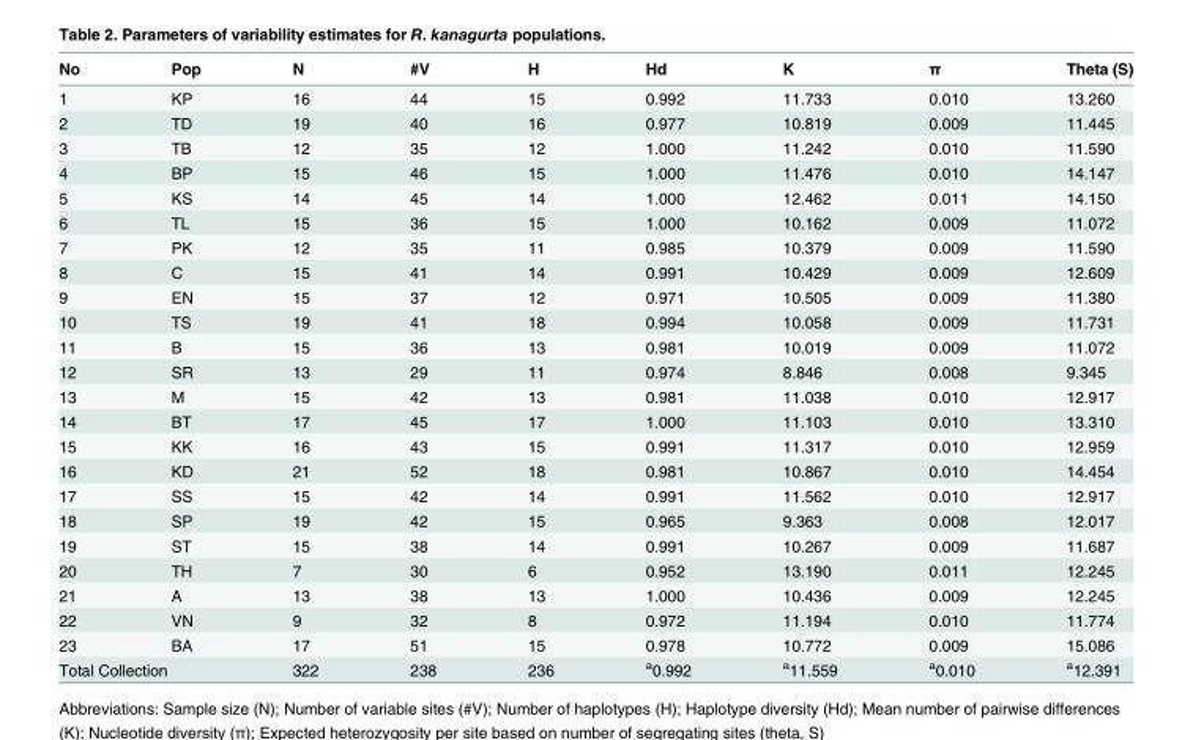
<table><thead><tr><td>No</td><td>Pop</td><td>N</td><td>#V</td><td>H</td><td>Hd</td><td>K</td><td>π</td><td>Theta (S)</td></tr></thead><tbody><tr><td>1</td><td>KP</td><td>16</td><td>44</td><td>15</td><td>0.992</td><td>11.733</td><td>0.010</td><td>13.260</td></tr><tr><td>2</td><td>TD</td><td>19</td><td>40</td><td>16</td><td>0.977</td><td>10.819</td><td>0.009</td><td>11.445</td></tr><tr><td>3</td><td>TB</td><td>12</td><td>35</td><td>12</td><td>1.000</td><td>11.242</td><td>0.010</td><td>11.590</td></tr><tr><td>4</td><td>BP</td><td>15</td><td>46</td><td>15</td><td>1.000</td><td>11.476</td><td>0.010</td><td>14.147</td></tr><tr><td>5</td><td>KS</td><td>14</td><td>45</td><td>14</td><td>1.000</td><td>12.462</td><td>0.011</td><td>14.150</td></tr><tr><td>6</td><td>TL</td><td>15</td><td>36</td><td>15</td><td>1.000</td><td>10.162</td><td>0.009</td><td>11.072</td></tr><tr><td>7</td><td>PK</td><td>12</td><td>35</td><td>11</td><td>0.985</td><td>10.379</td><td>0.009</td><td>11.590</td></tr><tr><td>8</td><td>C</td><td>15</td><td>41</td><td>14</td><td>0.991</td><td>10.429</td><td>0.009</td><td>12.609</td></tr><tr><td>9</td><td>EN</td><td>15</td><td>37</td><td>12</td><td>0.971</td><td>10.505</td><td>0.009</td><td>11.380</td></tr><tr><td>10</td><td>TS</td><td>19</td><td>41</td><td>18</td><td>0.994</td><td>10.058</td><td>0.009</td><td>11.731</td></tr><tr><td>11</td><td>B</td><td>15</td><td>36</td><td>13</td><td>0.981</td><td>10.019</td><td>0.009</td><td>11.072</td></tr><tr><td>12</td><td>SR</td><td>13</td><td>29</td><td>11</td><td>0.974</td><td>8.846</td><td>0.008</td><td>9.345</td></tr><tr><td>13</td><td>M</td><td>15</td><td>42</td><td>13</td><td>0.981</td><td>11.038</td><td>0.010</td><td>12.917</td></tr><tr><td>14</td><td>BT</td><td>17</td><td>45</td><td>17</td><td>1.000</td><td>11.103</td><td>0.010</td><td>13.310</td></tr><tr><td>15</td><td>KK</td><td>16</td><td>43</td><td>15</td><td>0.991</td><td>11.317</td><td>0.010</td><td>12.959</td></tr><tr><td>16</td><td>KD</td><td>21</td><td>52</td><td>18</td><td>0.981</td><td>10.867</td><td>0.010</td><td>14.454</td></tr><tr><td>17</td><td>SS</td><td>15</td><td>42</td><td>14</td><td>0.991</td><td>11.562</td><td>0.010</td><td>12.917</td></tr><tr><td>18</td><td>SP</td><td>19</td><td>42</td><td>15</td><td>0.965</td><td>9.363</td><td>0.008</td><td>12.017</td></tr><tr><td>19</td><td>ST</td><td>15</td><td>38</td><td>14</td><td>0.991</td><td>10.267</td><td>0.009</td><td>11.687</td></tr><tr><td>20</td><td>TH</td><td>7</td><td>30</td><td>6</td><td>0.952</td><td>13.190</td><td>0.011</td><td>12.245</td></tr><tr><td>21</td><td>A</td><td>13</td><td>38</td><td>13</td><td>1.000</td><td>10.436</td><td>0.009</td><td>12.245</td></tr><tr><td>22</td><td>VN</td><td>9</td><td>32</td><td>8</td><td>0.972</td><td>11.194</td><td>0.010</td><td>11.774</td></tr><tr><td>23</td><td>BA</td><td>17</td><td>51</td><td>15</td><td>0.978</td><td>10.772</td><td>0.009</td><td>15.086</td></tr><tr><td colspan="2">Total Collection</td><td>322</td><td>238</td><td>236</td><td><sup>a</sup>0.992</td><td><sup>a</sup>11.559</td><td><sup>a</sup>0.010</td><td><sup>a</sup>12.391</td></tr></tbody></table>